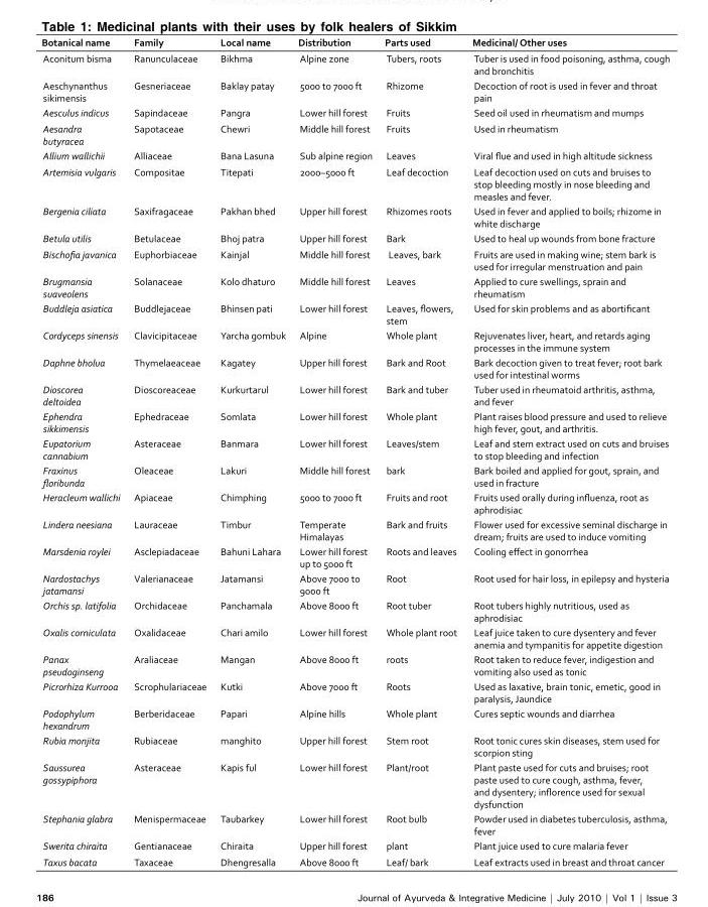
<table><thead><tr><td>Botanical name</td><td>Family</td><td>Local name</td><td>Distribution</td><td>Parts used</td><td>Medicinal/ Other uses</td></tr></thead><tbody><tr><td>Aconitum bisma</td><td>Ranunculaceae</td><td>Bikhma</td><td>Alpine zone</td><td>Tubers, roots</td><td>Tuber is used in food poisoning, asthma, cough and bronchitis</td></tr><tr><td>Aeschynanthus sikimensis</td><td>Gesneriaceae</td><td>Baklay patay</td><td>5000 to 7000 ft</td><td>Rhizome</td><td>Decoction of root is used in fever and throat pain</td></tr><tr><td>Aesculus indicus</td><td>Sapindaceae</td><td>Pangra</td><td>Lower hill forest</td><td>Fruits</td><td>Seed oil used in rheumatism and mumps</td></tr><tr><td>Aesandra butyracea</td><td>Sapotaceae</td><td>Chewri</td><td>Middle hill forest</td><td>Fruits</td><td>Used in rheumatism</td></tr><tr><td>Allium wallichii</td><td>Alliaceae</td><td>Bana Lasuna</td><td>Sub alpine region</td><td>Leaves</td><td>Viral flue and used in high altitude sickness</td></tr><tr><td>Artemisia vulgaris</td><td>Compositae</td><td>Titepati</td><td>2000–5000 ft</td><td>Leaf decoction</td><td>Leaf decoction used on cuts and bruises to stop bleeding mostly in nose bleeding and measles and fever.</td></tr><tr><td>Bergenia ciliata</td><td>Saxifragaceae</td><td>Pakhan bhed</td><td>Upper hill forest</td><td>Rhizomes roots</td><td>Used in fever and applied to boils; rhizome in white discharge</td></tr><tr><td>Betula utilis</td><td>Betulaceae</td><td>Bhoj patra</td><td>Upper hill forest</td><td>Bark</td><td>Used to heal up wounds from bone fracture</td></tr><tr><td>Bischofia javanica</td><td>Euphorbiaceae</td><td>Kainjal</td><td>Middle hill forest</td><td>Leaves, bark</td><td>Fruits are used in making wine; stem bark is used for irregular menstruation and pain</td></tr><tr><td>Brugmansia suaveolens</td><td>Solanaceae</td><td>Kolo dhaturo</td><td>Middle hill forest</td><td>Leaves</td><td>Applied to cure swellings, sprain and rheumatism</td></tr><tr><td>Buddleja asiatica</td><td>Buddlejaceae</td><td>Bhinsen pati</td><td>Lower hill forest</td><td>Leaves, flowers, stem</td><td>Used for skin problems and as abortificant</td></tr><tr><td>Cordyceps sinensis</td><td>Clavicipitaceae</td><td>Yarcha gombuk</td><td>Alpine</td><td>Whole plant</td><td>Rejuvenates liver, heart, and retards aging processes in the immune system</td></tr><tr><td>Daphne bholua</td><td>Thymelaeaceae</td><td>Kagatey</td><td>Upper hill forest</td><td>Bark and Root</td><td>Bark decoction given to treat fever; root bark used for intestinal worms</td></tr><tr><td>Dioscorea deltoidea</td><td>Dioscoreaceae</td><td>Kurkurtarul</td><td>Lower hill forest</td><td>Bark and tuber</td><td>Tuber used in rheumatoid arthritis, asthma, and fever</td></tr><tr><td>Ephendra sikkimensis</td><td>Ephedraceae</td><td>Somlata</td><td>Lower hill forest</td><td>Whole plant</td><td>Plant raises blood pressure and used to relieve high fever, gout, and arthritis.</td></tr><tr><td>Eupatorium cannabium</td><td>Asteraceae</td><td>Banmara</td><td>Lower hill forest</td><td>Leaves/stem</td><td>Leaf and stem extract used on cuts and bruises to stop bleeding and infection</td></tr><tr><td>Fraxinus floribunda</td><td>Oleaceae</td><td>Lakuri</td><td>Middle hill forest</td><td>bark</td><td>Bark boiled and applied for gout, sprain, and used in fracture</td></tr><tr><td>Heracleum wallichi</td><td>Apiaceae</td><td>Chimphing</td><td>5000 to 7000 ft</td><td>Fruits and root</td><td>Fruits used orally during influenza, root as aphrodisiac</td></tr><tr><td>Lindera neesiana</td><td>Lauraceae</td><td>Timbur</td><td>Temperate Himalayas</td><td>Bark and fruits</td><td>Flower used for excessive seminal discharge in dream; fruits are used to induce vomiting</td></tr><tr><td>Marsdenia roylei</td><td>Asclepiadaceae</td><td>Bahuni Lahara</td><td>Lower hill forest up to 5000 ft</td><td>Roots and leaves</td><td>Cooling effect in gonorrhea</td></tr><tr><td>Nardostachys jatamansi</td><td>Valerianaceae</td><td>Jatamansi</td><td>Above 7000 to 9000 ft</td><td>Root</td><td>Root used for hair loss, in epilepsy and hysteria</td></tr><tr><td>Orchis sp. latifolia</td><td>Orchidaceae</td><td>Panchamala</td><td>Above 8000 ft</td><td>Root tuber</td><td>Root tubers highly nutritious, used as aphrodisiac</td></tr><tr><td>Oxalis corniculata</td><td>Oxalidaceae</td><td>Chari amilo</td><td>Lower hill forest</td><td>Whole plant root</td><td>Leaf juice taken to cure dysentery and fever anemia and tympanitis for appetite digestion</td></tr><tr><td>Panax pseudoginseng</td><td>Araliaceae</td><td>Mangan</td><td>Above 8000 ft</td><td>roots</td><td>Root taken to reduce fever, indigestion and vomiting also used as tonic</td></tr><tr><td>Picrorhiza Kurrooa</td><td>Scrophulariaceae</td><td>Kutki</td><td>Above 7000 ft</td><td>Roots</td><td>Used as laxative, brain tonic, emetic, good in paralysis, Jaundice</td></tr><tr><td>Podophylum hexandrum</td><td>Berberidaceae</td><td>Papari</td><td>Alpine hills</td><td>Whole plant</td><td>Cures septic wounds and diarrhea</td></tr><tr><td>Rubia monjita</td><td>Rubiaceae</td><td>manghito</td><td>Upper hill forest</td><td>Stem root</td><td>Root tonic cures skin diseases, stem used for scorpion sting</td></tr><tr><td>Saussurea gossypiphora</td><td>Asteraceae</td><td>Kapis ful</td><td>Lower hill forest</td><td>Plant/root</td><td>Plant paste used for cuts and bruises; root paste used to cure cough, asthma, fever, and dysentery; inflorence used for sexual dysfunction</td></tr><tr><td>Stephania glabra</td><td>Menispermaceae</td><td>Taubarkey</td><td>Lower hill forest</td><td>Root bulb</td><td>Powder used in diabetes tuberculosis, asthma, fever</td></tr><tr><td>Swerita chiraita</td><td>Gentianaceae</td><td>Chiraita</td><td>Upper hill forest</td><td>plant</td><td>Plant juice used to cure malaria fever</td></tr><tr><td>Taxus bacata</td><td>Taxaceae</td><td>Dhengresalla</td><td>Above 8000 ft</td><td>Leaf/ bark</td><td>Leaf extracts used in breast and throat cancer</td></tr></tbody></table>